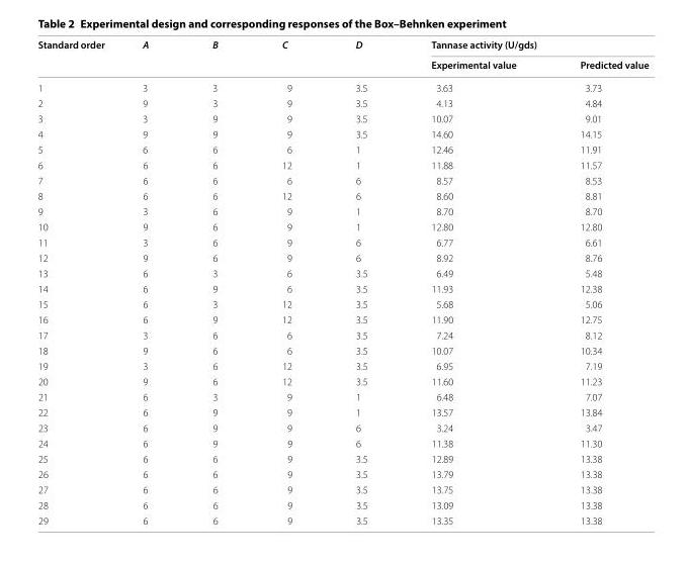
<table><thead><tr><td rowspan="2">Standard order</td><td rowspan="2">A</td><td rowspan="2">B</td><td rowspan="2">C</td><td rowspan="2">D</td><td colspan="2">Tannase activity (U/gds)</td></tr><tr><td>Experimental value</td><td>Predicted value</td></tr></thead><tbody><tr><td>1</td><td>3</td><td>3</td><td>9</td><td>3.5</td><td>3.63</td><td>3.73</td></tr><tr><td>2</td><td>9</td><td>3</td><td>9</td><td>3.5</td><td>4.13</td><td>4.84</td></tr><tr><td>3</td><td>3</td><td>9</td><td>9</td><td>3.5</td><td>10.07</td><td>9.01</td></tr><tr><td>4</td><td>9</td><td>9</td><td>9</td><td>3.5</td><td>14.60</td><td>14.15</td></tr><tr><td>5</td><td>6</td><td>6</td><td>6</td><td>1</td><td>12.46</td><td>11.91</td></tr><tr><td>6</td><td>6</td><td>6</td><td>12</td><td>1</td><td>11.88</td><td>11.57</td></tr><tr><td>7</td><td>6</td><td>6</td><td>6</td><td>6</td><td>8.57</td><td>8.53</td></tr><tr><td>8</td><td>6</td><td>6</td><td>12</td><td>6</td><td>8.60</td><td>8.81</td></tr><tr><td>9</td><td>3</td><td>6</td><td>9</td><td>1</td><td>8.70</td><td>8.70</td></tr><tr><td>10</td><td>9</td><td>6</td><td>9</td><td>1</td><td>12.80</td><td>12.80</td></tr><tr><td>11</td><td>3</td><td>6</td><td>9</td><td>6</td><td>6.77</td><td>6.61</td></tr><tr><td>12</td><td>9</td><td>6</td><td>9</td><td>6</td><td>8.92</td><td>8.76</td></tr><tr><td>13</td><td>6</td><td>3</td><td>6</td><td>3.5</td><td>6.49</td><td>5.48</td></tr><tr><td>14</td><td>6</td><td>9</td><td>6</td><td>3.5</td><td>11.93</td><td>12.38</td></tr><tr><td>15</td><td>6</td><td>3</td><td>12</td><td>3.5</td><td>5.68</td><td>5.06</td></tr><tr><td>16</td><td>6</td><td>9</td><td>12</td><td>3.5</td><td>11.90</td><td>12.75</td></tr><tr><td>17</td><td>3</td><td>6</td><td>6</td><td>3.5</td><td>7.24</td><td>8.12</td></tr><tr><td>18</td><td>9</td><td>6</td><td>6</td><td>3.5</td><td>10.07</td><td>10.34</td></tr><tr><td>19</td><td>3</td><td>6</td><td>12</td><td>3.5</td><td>6.95</td><td>7.19</td></tr><tr><td>20</td><td>9</td><td>6</td><td>12</td><td>3.5</td><td>11.60</td><td>11.23</td></tr><tr><td>21</td><td>6</td><td>3</td><td>9</td><td>1</td><td>6.48</td><td>7.07</td></tr><tr><td>22</td><td>6</td><td>9</td><td>9</td><td>1</td><td>13.57</td><td>13.84</td></tr><tr><td>23</td><td>6</td><td>9</td><td>9</td><td>6</td><td>3.24</td><td>3.47</td></tr><tr><td>24</td><td>6</td><td>9</td><td>9</td><td>6</td><td>11.38</td><td>11.30</td></tr><tr><td>25</td><td>6</td><td>6</td><td>9</td><td>3.5</td><td>12.89</td><td>13.38</td></tr><tr><td>26</td><td>6</td><td>6</td><td>9</td><td>3.5</td><td>13.79</td><td>13.38</td></tr><tr><td>27</td><td>6</td><td>6</td><td>9</td><td>3.5</td><td>13.75</td><td>13.38</td></tr><tr><td>28</td><td>6</td><td>6</td><td>9</td><td>3.5</td><td>13.09</td><td>13.38</td></tr><tr><td>29</td><td>6</td><td>6</td><td>9</td><td>3.5</td><td>13.35</td><td>13.38</td></tr></tbody></table>